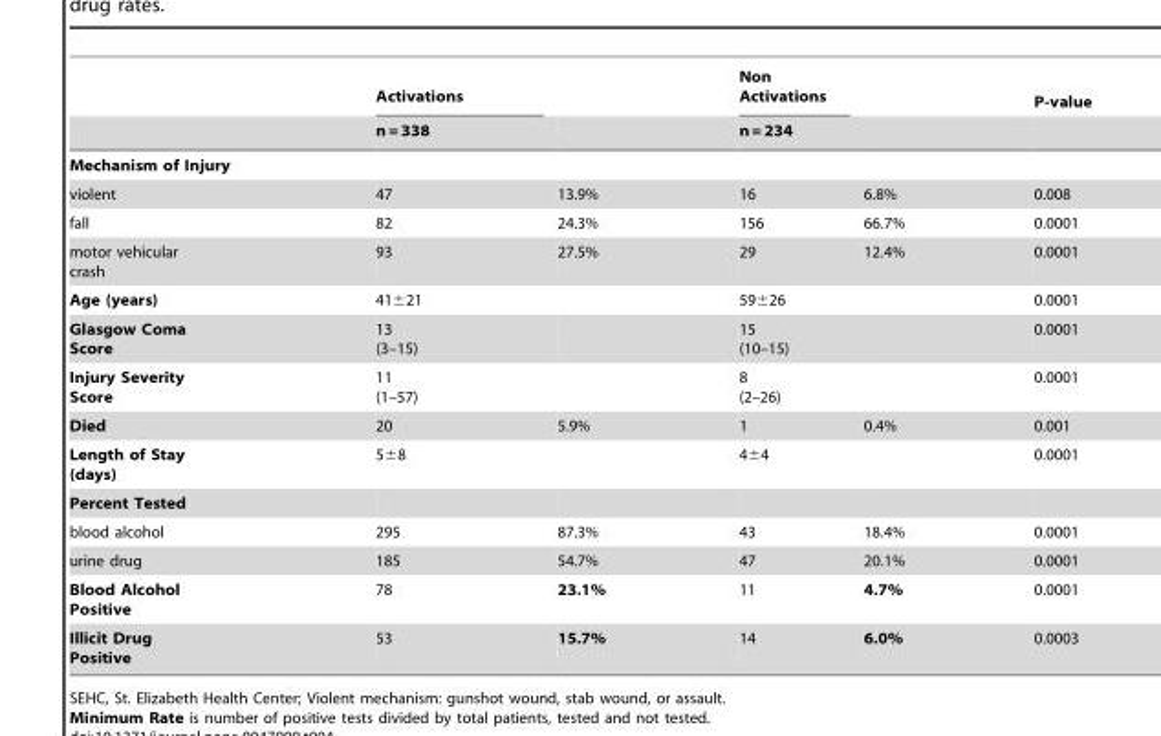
<table><thead><tr><td rowspan="2"></td><td rowspan="2">Activations n = 338</td><td rowspan="2"></td><td rowspan="2">Non Activations n = 234</td><td rowspan="2"></td><td rowspan="2">P-value</td></tr><tr></tr></thead><tbody><tr><td colspan="6">Mechanism of Injury</td></tr><tr><td>violent</td><td>47</td><td>13.9%</td><td>16</td><td>6.8%</td><td>0.008</td></tr><tr><td>fall</td><td>82</td><td>24.3%</td><td>156</td><td>66.7%</td><td>0.0001</td></tr><tr><td>motor vehicular crash</td><td>93</td><td>27.5%</td><td>29</td><td>12.4%</td><td>0.0001</td></tr><tr><td>Age (years)</td><td>41±21</td><td></td><td>59±26</td><td></td><td>0.0001</td></tr><tr><td>Glasgow Coma Score</td><td>13 (3–15)</td><td></td><td>15 (10–15)</td><td></td><td>0.0001</td></tr><tr><td>Injury Severity Score</td><td>11 (1–57)</td><td></td><td>8 (2–26)</td><td></td><td>0.0001</td></tr><tr><td>Died</td><td>20</td><td>5.9%</td><td>1</td><td>0.4%</td><td>0.001</td></tr><tr><td>Length of Stay (days)</td><td>5±8</td><td></td><td>4±4</td><td></td><td>0.0001</td></tr><tr><td colspan="6">Percent Tested</td></tr><tr><td>blood alcohol</td><td>295</td><td>87.3%</td><td>43</td><td>18.4%</td><td>0.0001</td></tr><tr><td>urine drug</td><td>185</td><td>54.7%</td><td>47</td><td>20.1%</td><td>0.0001</td></tr><tr><td>Blood Alcohol Positive</td><td>78</td><td>23.1%</td><td>11</td><td>4.7%</td><td>0.0001</td></tr><tr><td>Illicit Drug Positive</td><td>53</td><td>15.7%</td><td>14</td><td>6.0%</td><td>0.0003</td></tr></tbody></table>